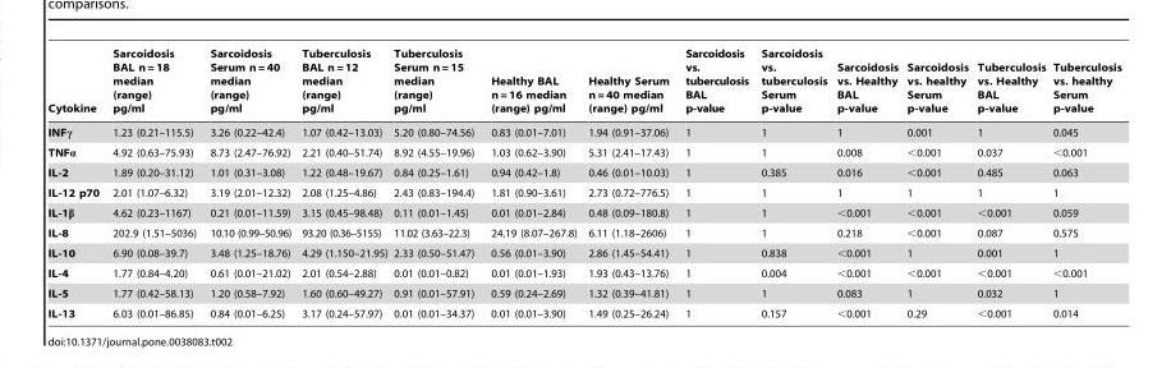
<table><thead><tr><td>Cytokine</td><td>Sarcoidosis BAL n = 18 median (range) pg/ml</td><td>Sarcoidosis Serum n = 40 median (range) pg/ml</td><td>Tuberculosis BAL n = 12 median (range) pg/ml</td><td>Tuberculosis Serum n = 15 median (range) pg/ml</td><td>Healthy BAL n = 16 median (range) pg/ml</td><td>Healthy Serum n = 40 median (range) pg/ml</td><td>Sarcoidosis vs. tuberculosis BAL p-value</td><td>Sarcoidosis vs. tuberculosis Serum p-value</td><td>Sarcoidosis vs. Healthy BAL p-value</td><td>Sarcoidosis vs. healthy Serum p-value</td><td>Tuberculosis vs. Healthy BAL p-value</td><td>Tuberculosis vs. healthy Serum p-value</td></tr></thead><tbody><tr><td>INFγ</td><td>1.23 (0.21–115.5)</td><td>3.26 (0.22–42.4)</td><td>1.07 (0.42–13.03)</td><td>5.20 (0.80–74.56)</td><td>0.83 (0.01–7.01)</td><td>1.94 (0.91–37.06)</td><td>1</td><td>1</td><td>1</td><td>0.001</td><td>1</td><td>0.045</td></tr><tr><td>TNFα</td><td>4.92 (0.63–75.93)</td><td>8.73 (2.47–76.92)</td><td>2.21 (0.40–51.74)</td><td>8.92 (4.55–19.96)</td><td>1.03 (0.62–3.90)</td><td>5.31 (2.41–17.43)</td><td>1</td><td>1</td><td>0.008</td><td>&lt;0.001</td><td>0.037</td><td>&lt;0.001</td></tr><tr><td>IL-2</td><td>1.89 (0.20–31.12)</td><td>1.01 (0.31–3.08)</td><td>1.22 (0.48–19.67)</td><td>0.84 (0.25–1.61)</td><td>0.94 (0.42–1.8)</td><td>0.46 (0.01–10.03)</td><td>1</td><td>0.385</td><td>0.016</td><td>&lt;0.001</td><td>0.485</td><td>0.063</td></tr><tr><td>IL-12 p70</td><td>2.01 (1.07–6.32)</td><td>3.19 (2.01–12.32)</td><td>2.08 (1.25–4.86)</td><td>2.43 (0.83–194.4)</td><td>1.81 (0.90–3.61)</td><td>2.73 (0.72–776.5)</td><td>1</td><td>1</td><td>1</td><td>1</td><td>1</td><td>1</td></tr><tr><td>IL-1β</td><td>4.62 (0.23–1167)</td><td>0.21 (0.01–11.59)</td><td>3.15 (0.45–98.48)</td><td>0.11 (0.01–1.45)</td><td>0.01 (0.01–2.84)</td><td>0.48 (0.09–180.8)</td><td>1</td><td>1</td><td>&lt;0.001</td><td>&lt;0.001</td><td>&lt;0.001</td><td>0.059</td></tr><tr><td>IL-8</td><td>202.9 (1.51–5036)</td><td>10.10 (0.99–50.96)</td><td>93.20 (0.36–5155)</td><td>11.02 (3.63–22.3)</td><td>24.19 (8.07–267.8)</td><td>6.11 (1.18–2606)</td><td>1</td><td>1</td><td>0.218</td><td>&lt;0.001</td><td>0.087</td><td>0.575</td></tr><tr><td>IL-10</td><td>6.90 (0.08–39.7)</td><td>3.48 (1.25–18.76)</td><td>4.29 (1.150–21.95)</td><td>2.33 (0.50–51.47)</td><td>0.56 (0.01–3.90)</td><td>2.86 (1.45–54.41)</td><td>1</td><td>0.838</td><td>&lt;0.001</td><td>1</td><td>0.001</td><td>1</td></tr><tr><td>IL-4</td><td>1.77 (0.84–4.20)</td><td>0.61 (0.01–21.02)</td><td>2.01 (0.54–2.88)</td><td>0.01 (0.01–0.82)</td><td>0.01 (0.01–1.93)</td><td>1.93 (0.43–13.76)</td><td>1</td><td>0.004</td><td>&lt;0.001</td><td>&lt;0.001</td><td>&lt;0.001</td><td>&lt;0.001</td></tr><tr><td>IL-5</td><td>1.77 (0.42–58.13)</td><td>1.20 (0.58–7.92)</td><td>1.60 (0.60–49.27)</td><td>0.91 (0.01–57.91)</td><td>0.59 (0.24–2.69)</td><td>1.32 (0.39–41.81)</td><td>1</td><td>1</td><td>0.083</td><td>1</td><td>0.032</td><td>1</td></tr><tr><td>IL-13</td><td>6.03 (0.01–86.85)</td><td>0.84 (0.01–6.25)</td><td>3.17 (0.24–57.97)</td><td>0.01 (0.01–34.37)</td><td>0.01 (0.01–3.90)</td><td>1.49 (0.25–26.24)</td><td>1</td><td>0.157</td><td>&lt;0.001</td><td>0.29</td><td>&lt;0.001</td><td>0.014</td></tr></tbody></table>